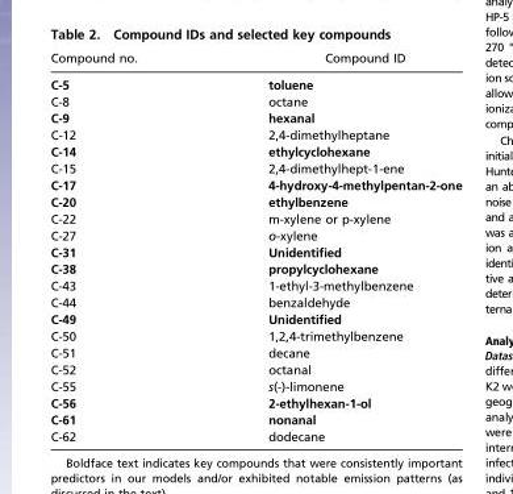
<table><thead><tr><td>Compound no.</td><td>Compound ID</td></tr></thead><tbody><tr><td>C-5</td><td>toluene</td></tr><tr><td>C-8</td><td>octane</td></tr><tr><td>C-9</td><td>hexanal</td></tr><tr><td>C-12</td><td>2,4-dimethylheptane</td></tr><tr><td>C-14</td><td>ethylcyclohexane</td></tr><tr><td>C-15</td><td>2,4-dimethylhept-1-ene</td></tr><tr><td>C-17</td><td>4-hydroxy-4-methylpentan-2-one</td></tr><tr><td>C-20</td><td>ethylbenzene</td></tr><tr><td>C-22</td><td>m-xylene or p-xylene</td></tr><tr><td>C-27</td><td>o-xylene</td></tr><tr><td>C-31</td><td>Unidentified</td></tr><tr><td>C-38</td><td>propylcyclohexane</td></tr><tr><td>C-43</td><td>1-ethyl-3-methylbenzene</td></tr><tr><td>C-44</td><td>benzaldehyde</td></tr><tr><td>C-49</td><td>Unidentified</td></tr><tr><td>C-50</td><td>1,2,4-trimethylbenzene</td></tr><tr><td>C-51</td><td>decane</td></tr><tr><td>C-52</td><td>octanal</td></tr><tr><td>C-55</td><td>s(-)-limonene</td></tr><tr><td>C-56</td><td>2-ethylhexan-1-ol</td></tr><tr><td>C-61</td><td>nonanal</td></tr><tr><td>C-62</td><td>dodecane</td></tr></tbody></table>